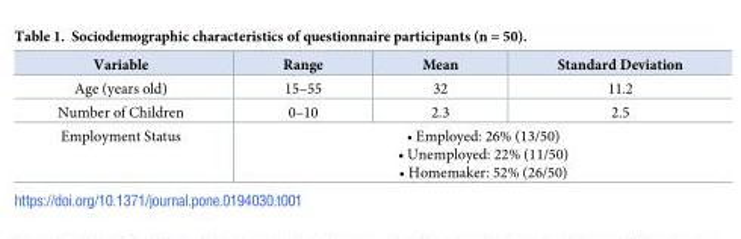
<table><thead><tr><td>Variable</td><td>Range</td><td>Mean</td><td>Standard Deviation</td></tr></thead><tbody><tr><td>Age (years old)</td><td>15–55</td><td>32</td><td>11.2</td></tr><tr><td>Number of Children</td><td>0–10</td><td>2.3</td><td>2.5</td></tr><tr><td>Employment Status</td><td colspan="3">• Employed: 26% (13/50) • Unemployed: 22% (11/50) • Homemaker: 52% (26/50)</td></tr></tbody></table>